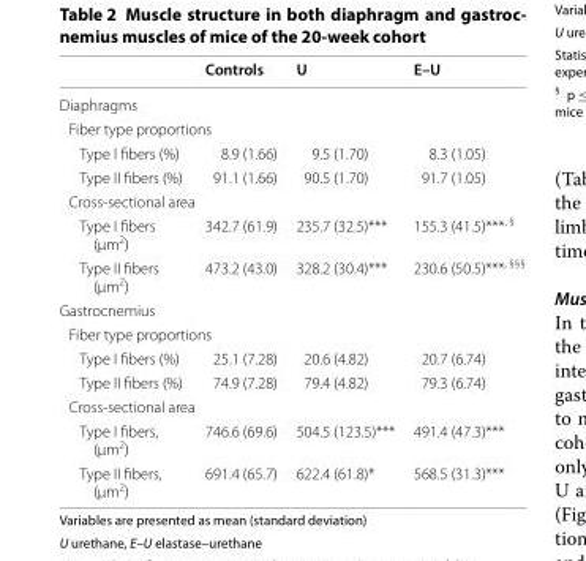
<table><thead><tr><td></td><td>Controls</td><td>U</td><td>E–U</td></tr></thead><tbody><tr><td colspan="4">Diaphragms</td></tr><tr><td colspan="4">Fiber type proportions</td></tr><tr><td>Type I fibers (%)</td><td>8.9 (1.66)</td><td>9.5 (1.70)</td><td>8.3 (1.05)</td></tr><tr><td>Type II fibers (%)</td><td>91.1 (1.66)</td><td>90.5 (1.70)</td><td>91.7 (1.05)</td></tr><tr><td colspan="4">Cross‑sectional area</td></tr><tr><td>Type I fibers (μm<sup>2</sup>)</td><td>342.7 (61.9)</td><td>235.7 (32.5)***</td><td>155.3 (41.5)***<sup>, §</sup></td></tr><tr><td>Type II fibers (μm<sup>2</sup>)</td><td>473.2 (43.0)</td><td>328.2 (30.4)***</td><td>230.6 (50.5)***<sup>, §§§</sup></td></tr><tr><td colspan="4">Gastrocnemius</td></tr><tr><td colspan="4">Fiber type proportions</td></tr><tr><td>Type I fibers (%)</td><td>25.1 (7.28)</td><td>20.6 (4.82)</td><td>20.7 (6.74)</td></tr><tr><td>Type II fibers (%)</td><td>74.9 (7.28)</td><td>79.4 (4.82)</td><td>79.3 (6.74)</td></tr><tr><td colspan="4">Cross‑sectional area</td></tr><tr><td>Type I fibers, (μm<sup>2</sup>)</td><td>746.6 (69.6)</td><td>504.5 (123.5)***</td><td>491.4 (47.3)***</td></tr><tr><td>Type II fibers, (μm<sup>2</sup>)</td><td>691.4 (65.7)</td><td>622.4 (61.8)*</td><td>568.5 (31.3)***</td></tr></tbody></table>